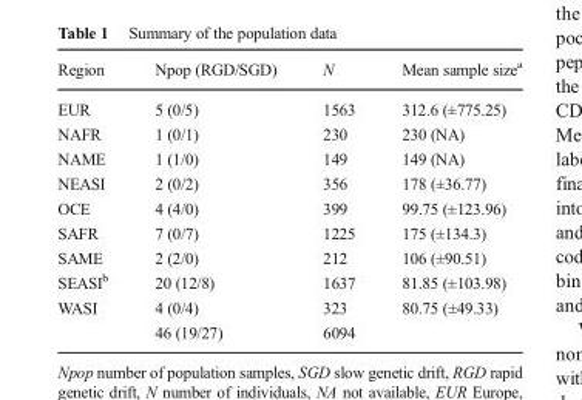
<table><thead><tr><td>Region</td><td>Npop (RGD/SGD)</td><td>N</td><td>Mean sample size<sup>a</sup></td></tr></thead><tbody><tr><td>EUR</td><td>5 (0/5)</td><td>1563</td><td>312.6 (±775.25)</td></tr><tr><td>NAFR</td><td>1 (0/1)</td><td>230</td><td>230 (NA)</td></tr><tr><td>NAME</td><td>1 (1/0)</td><td>149</td><td>149 (NA)</td></tr><tr><td>NEASI</td><td>2 (0/2)</td><td>356</td><td>178 (±36.77)</td></tr><tr><td>OCE</td><td>4 (4/0)</td><td>399</td><td>99.75 (±123.96)</td></tr><tr><td>SAFR</td><td>7 (0/7)</td><td>1225</td><td>175 (±134.3)</td></tr><tr><td>SAME</td><td>2 (2/0)</td><td>212</td><td>106 (±90.51)</td></tr><tr><td>SEASI<sup>b</sup></td><td>20 (12/8)</td><td>1637</td><td>81.85 (±103.98)</td></tr><tr><td rowspan="2">WASI</td><td>4 (0/4)</td><td>323</td><td>80.75 (±49.33)</td></tr><tr><td>46 (19/27)</td><td>6094</td><td></td></tr></tbody></table>